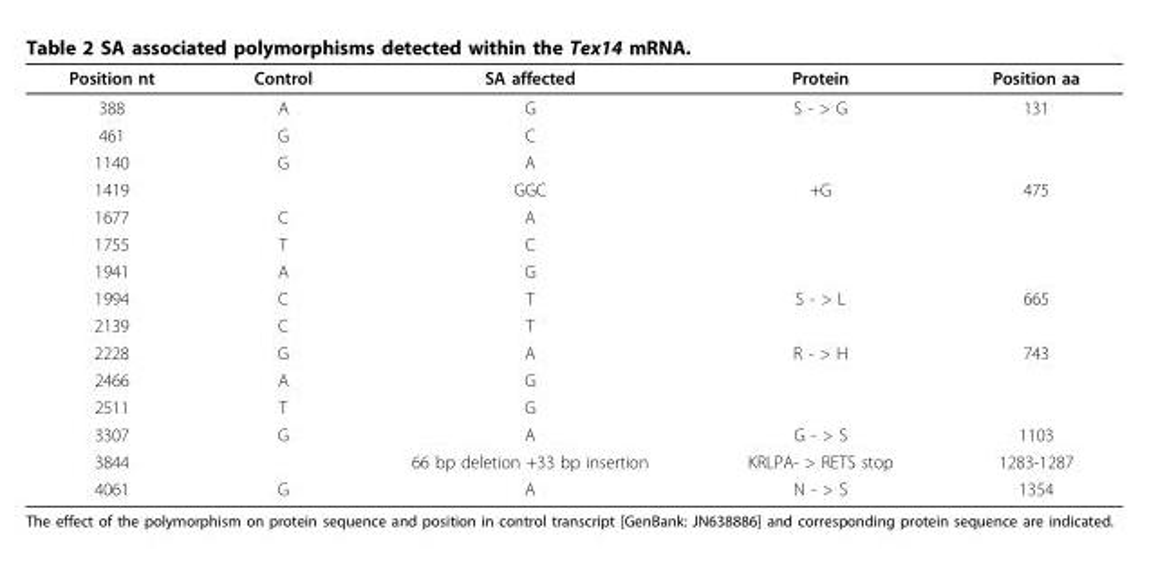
<table><thead><tr><td>Position nt</td><td>Control</td><td>SA affected</td><td>Protein</td><td>Position aa</td></tr></thead><tbody><tr><td>388</td><td>A</td><td>G</td><td>S - &gt; G</td><td>131</td></tr><tr><td>461</td><td>G</td><td>C</td><td></td><td></td></tr><tr><td>1140</td><td>G</td><td>A</td><td></td><td></td></tr><tr><td>1419</td><td></td><td>GGC</td><td>+G</td><td>475</td></tr><tr><td>1677</td><td>C</td><td>A</td><td></td><td></td></tr><tr><td>1755</td><td>T</td><td>C</td><td></td><td></td></tr><tr><td>1941</td><td>A</td><td>G</td><td></td><td></td></tr><tr><td>1994</td><td>C</td><td>T</td><td>S - &gt; L</td><td>665</td></tr><tr><td>2139</td><td>C</td><td>T</td><td></td><td></td></tr><tr><td>2228</td><td>G</td><td>A</td><td>R - &gt; H</td><td>743</td></tr><tr><td>2466</td><td>A</td><td>G</td><td></td><td></td></tr><tr><td>2511</td><td>T</td><td>G</td><td></td><td></td></tr><tr><td>3307</td><td>G</td><td>A</td><td>G - &gt; S</td><td>1103</td></tr><tr><td>3844</td><td></td><td>66 bp deletion +33 bp insertion</td><td>KRLPA- &gt; RETS stop</td><td>1283-1287</td></tr><tr><td>4061</td><td>G</td><td>A</td><td>N - &gt; S</td><td>1354</td></tr></tbody></table>